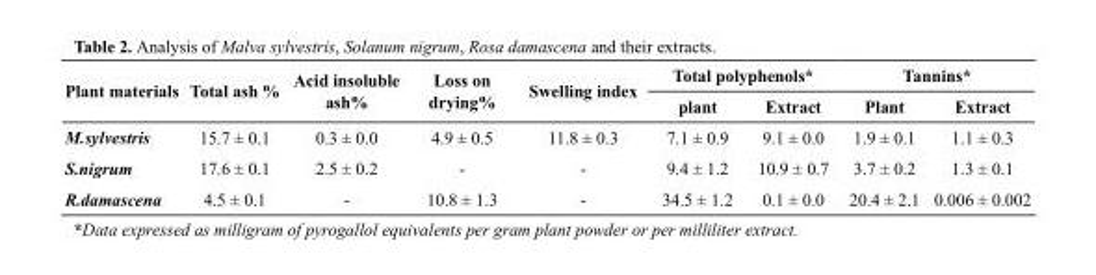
<table><thead><tr><td rowspan="2">Plant materials</td><td rowspan="2">Total ash %</td><td rowspan="2">Acid insoluble ash%</td><td rowspan="2">Loss on drying%</td><td rowspan="2">Swelling index</td><td colspan="2">Total polyphenols*</td><td colspan="2">Tannins*</td></tr><tr><td>plant</td><td>Extract</td><td>Plant</td><td>Extract</td></tr></thead><tbody><tr><td>M.sylvestris</td><td>15.7 ± 0.1</td><td>0.3 ± 0.0</td><td>4.9 ± 0.5</td><td>11.8 ± 0.3</td><td>7.1 ± 0.9</td><td>9.1 ± 0.0</td><td>1.9 ± 0.1</td><td>1.1 ± 0.3</td></tr><tr><td>S.nigrum</td><td>17.6 ± 0.1</td><td>2.5 ± 0.2</td><td>-</td><td>-</td><td>9.4 ± 1.2</td><td>10.9 ± 0.7</td><td>3.7 ± 0.2</td><td>1.3 ± 0.1</td></tr><tr><td>R.damascena</td><td>4.5 ± 0.1</td><td>-</td><td>10.8 ± 1.3</td><td>-</td><td>34.5 ± 1.2</td><td>0.1 ± 0.0</td><td>20.4 ± 2.1</td><td>0.006 ± 0.002</td></tr></tbody></table>